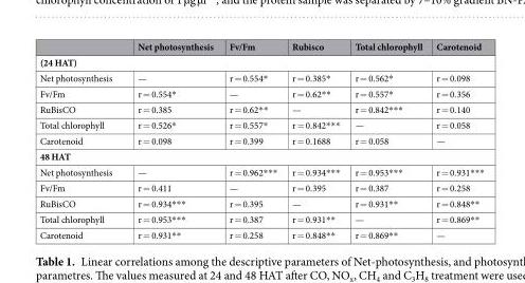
<table><thead><tr><td></td><td>Net photosynthesis</td><td>Fv/Fm</td><td>Rubisco</td><td>Total chlorophyll</td><td>Carotenoid</td></tr></thead><tbody><tr><td colspan="6">(24 HAT)</td></tr><tr><td>Net photosynthesis</td><td>—</td><td>r = 0.554*</td><td>r = 0.385*</td><td>r = 0.562*</td><td>r = 0.098</td></tr><tr><td>Fv/Fm</td><td>r = 0.554*</td><td>—</td><td>r = 0.62**</td><td>r = 0.557*</td><td>r = 0.356</td></tr><tr><td>RuBisCO</td><td>r = 0.385</td><td>r = 0.62**</td><td>—</td><td>r = 0.842***</td><td>r = 0.140</td></tr><tr><td>Total chlorophyll</td><td>r = 0.526*</td><td>r = 0.557*</td><td>r = 0.842***</td><td>—</td><td>r = 0.058</td></tr><tr><td>Carotenoid</td><td>r = 0.098</td><td>r = 0.399</td><td>r = 0.1688</td><td>r = 0.058</td><td>—</td></tr><tr><td colspan="6">48 HAT</td></tr><tr><td>Net photosynthesis</td><td>—</td><td>r = 0.962***</td><td>r = 0.934***</td><td>r = 0.953***</td><td>r = 0.931***</td></tr><tr><td>Fv/Fm</td><td>r = 0.411</td><td>—</td><td>r = 0.395</td><td>r = 0.387</td><td>r = 0.258</td></tr><tr><td>RuBisCO</td><td>r = 0.934***</td><td>r = 0.395</td><td>—</td><td>r = 0.931**</td><td>r = 0.848**</td></tr><tr><td>Total chlorophyll</td><td>r = 0.953***</td><td>r = 0.387</td><td>r = 0.931**</td><td>—</td><td>r = 0.869**</td></tr><tr><td>Carotenoid</td><td>r = 0.931**</td><td>r = 0.258</td><td>r = 0.848**</td><td>r = 0.869**</td><td>—</td></tr></tbody></table>